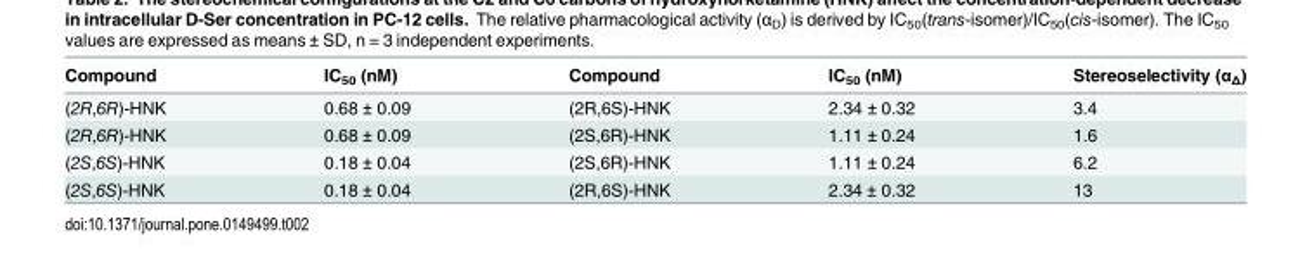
<table><thead><tr><td>Compound</td><td>IC<sub>50</sub> (nM)</td><td>Compound</td><td>IC<sub>50</sub> (nM)</td><td>Stereoselectivity (α<sub>Δ</sub>)</td></tr></thead><tbody><tr><td>(2R,6R)-HNK</td><td>0.68 ± 0.09</td><td>(2R,6S)-HNK</td><td>2.34 ± 0.32</td><td>3.4</td></tr><tr><td>(2R,6R)-HNK</td><td>0.68 ± 0.09</td><td>(2S,6R)-HNK</td><td>1.11 ± 0.24</td><td>1.6</td></tr><tr><td>(2S,6S)-HNK</td><td>0.18 ± 0.04</td><td>(2S,6R)-HNK</td><td>1.11 ± 0.24</td><td>6.2</td></tr><tr><td>(2S,6S)-HNK</td><td>0.18 ± 0.04</td><td>(2R,6S)-HNK</td><td>2.34 ± 0.32</td><td>13</td></tr></tbody></table>